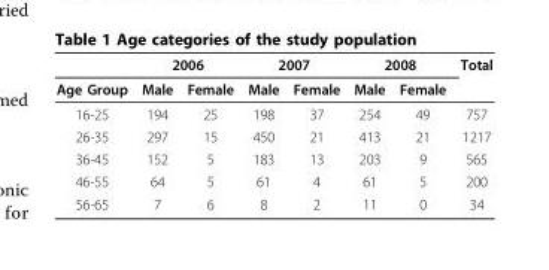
<table><thead><tr><td rowspan="2">Age Group</td><td colspan="2">2006</td><td colspan="2">2007</td><td colspan="2">2008</td><td rowspan="2">Total</td></tr><tr><td>Male</td><td>Female</td><td>Male</td><td>Female</td><td>Male</td><td>Female</td></tr></thead><tbody><tr><td>16-25</td><td>194</td><td>25</td><td>198</td><td>37</td><td>254</td><td>49</td><td>757</td></tr><tr><td>26-35</td><td>297</td><td>15</td><td>450</td><td>21</td><td>413</td><td>21</td><td>1217</td></tr><tr><td>36-45</td><td>152</td><td>5</td><td>183</td><td>13</td><td>203</td><td>9</td><td>565</td></tr><tr><td>46-55</td><td>64</td><td>5</td><td>61</td><td>4</td><td>61</td><td>5</td><td>200</td></tr><tr><td>56-65</td><td>7</td><td>6</td><td>8</td><td>2</td><td>11</td><td>0</td><td>34</td></tr></tbody></table>